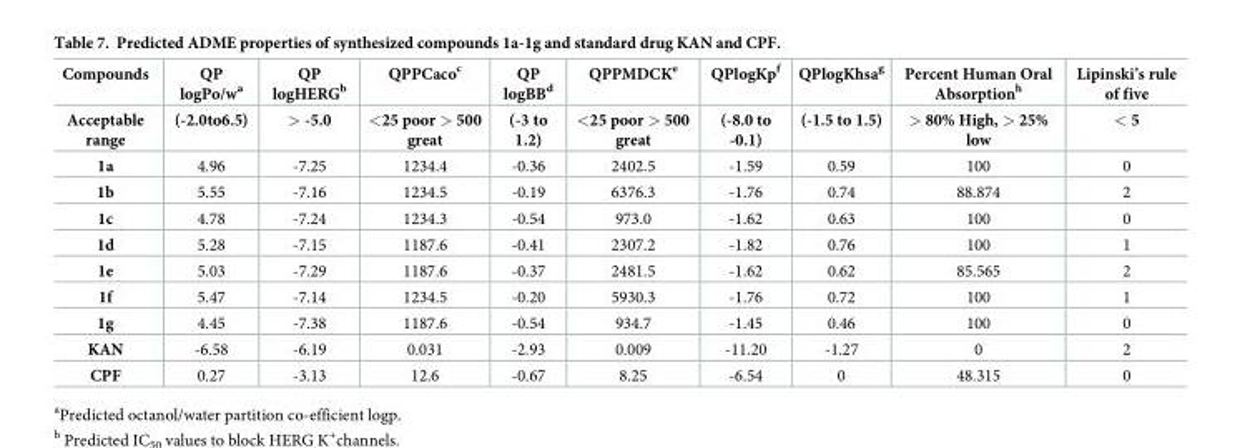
<table><thead><tr><td>Compounds</td><td>QP logPo/w<sup>a</sup></td><td>QP logHERG<sup>b</sup></td><td>QPPCaco<sup>c</sup></td><td>QP logBB<sup>d</sup></td><td>QPPMDCK<sup>e</sup></td><td>QPlogKp<sup>f</sup></td><td>QPlogKhsa<sup>g</sup></td><td>Percent Human Oral Absorption<sup>h</sup></td><td>Lipinski’s rule of five</td></tr></thead><tbody><tr><td>Acceptable range</td><td>(-2.0to6.5)</td><td>&gt; -5.0</td><td>&lt;25 poor &gt; 500 great</td><td>(-3 to 1.2)</td><td>&lt;25 poor &gt; 500 great</td><td>(-8.0 to -0.1)</td><td>(-1.5 to 1.5)</td><td>&gt; 80% High, &gt; 25% low</td><td>&lt; 5</td></tr><tr><td>1a</td><td>4.96</td><td>-7.25</td><td>1234.4</td><td>-0.36</td><td>2402.5</td><td>-1.59</td><td>0.59</td><td>100</td><td>0</td></tr><tr><td>1b</td><td>5.55</td><td>-7.16</td><td>1234.5</td><td>-0.19</td><td>6376.3</td><td>-1.76</td><td>0.74</td><td>88.874</td><td>2</td></tr><tr><td>1c</td><td>4.78</td><td>-7.24</td><td>1234.3</td><td>-0.54</td><td>973.0</td><td>-1.62</td><td>0.63</td><td>100</td><td>0</td></tr><tr><td>1d</td><td>5.28</td><td>-7.15</td><td>1187.6</td><td>-0.41</td><td>2307.2</td><td>-1.82</td><td>0.76</td><td>100</td><td>1</td></tr><tr><td>1e</td><td>5.03</td><td>-7.29</td><td>1187.6</td><td>-0.37</td><td>2481.5</td><td>-1.62</td><td>0.62</td><td>85.565</td><td>2</td></tr><tr><td>1f</td><td>5.47</td><td>-7.14</td><td>1234.5</td><td>-0.20</td><td>5930.3</td><td>-1.76</td><td>0.72</td><td>100</td><td>1</td></tr><tr><td>1g</td><td>4.45</td><td>-7.38</td><td>1187.6</td><td>-0.54</td><td>934.7</td><td>-1.45</td><td>0.46</td><td>100</td><td>0</td></tr><tr><td>KAN</td><td>-6.58</td><td>-6.19</td><td>0.031</td><td>-2.93</td><td>0.009</td><td>-11.20</td><td>-1.27</td><td>0</td><td>2</td></tr><tr><td>CPF</td><td>0.27</td><td>-3.13</td><td>12.6</td><td>-0.67</td><td>8.25</td><td>-6.54</td><td>0</td><td>48.315</td><td>0</td></tr></tbody></table>